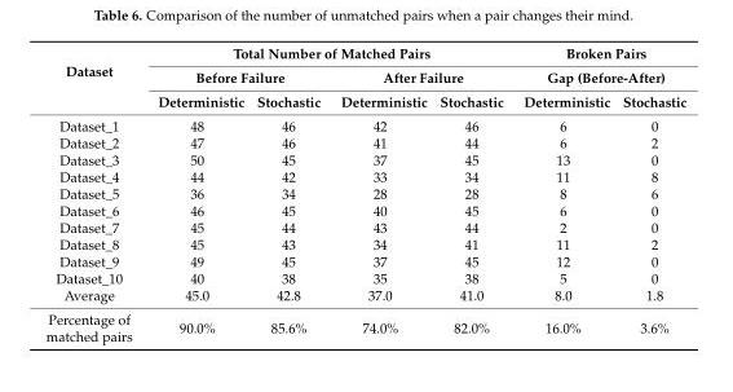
<table><thead><tr><td rowspan="3">Dataset</td><td colspan="4">Total Number of Matched Pairs</td><td rowspan="2" colspan="2">Broken Pairs Gap (Before-After)</td></tr><tr><td colspan="2">Before Failure</td><td colspan="2">After Failure</td></tr><tr><td>Deterministic</td><td>Stochastic</td><td>Deterministic</td><td>Stochastic</td><td>Deterministic</td><td>Stochastic</td></tr></thead><tbody><tr><td>Dataset_1</td><td>48</td><td>46</td><td>42</td><td>46</td><td>6</td><td>0</td></tr><tr><td>Dataset_2</td><td>47</td><td>46</td><td>41</td><td>44</td><td>6</td><td>2</td></tr><tr><td>Dataset_3</td><td>50</td><td>45</td><td>37</td><td>45</td><td>13</td><td>0</td></tr><tr><td>Dataset_4</td><td>44</td><td>42</td><td>33</td><td>34</td><td>11</td><td>8</td></tr><tr><td>Dataset_5</td><td>36</td><td>34</td><td>28</td><td>28</td><td>8</td><td>6</td></tr><tr><td>Dataset_6</td><td>46</td><td>45</td><td>40</td><td>45</td><td>6</td><td>0</td></tr><tr><td>Dataset_7</td><td>45</td><td>44</td><td>43</td><td>44</td><td>2</td><td>0</td></tr><tr><td>Dataset_8</td><td>45</td><td>43</td><td>34</td><td>41</td><td>11</td><td>2</td></tr><tr><td>Dataset_9</td><td>49</td><td>45</td><td>37</td><td>45</td><td>12</td><td>0</td></tr><tr><td>Dataset_10</td><td>40</td><td>38</td><td>35</td><td>38</td><td>5</td><td>0</td></tr><tr><td>Average</td><td>45.0</td><td>42.8</td><td>37.0</td><td>41.0</td><td>8.0</td><td>1.8</td></tr><tr><td>Percentage of matched pairs</td><td>90.0%</td><td>85.6%</td><td>74.0%</td><td>82.0%</td><td>16.0%</td><td>3.6%</td></tr></tbody></table>